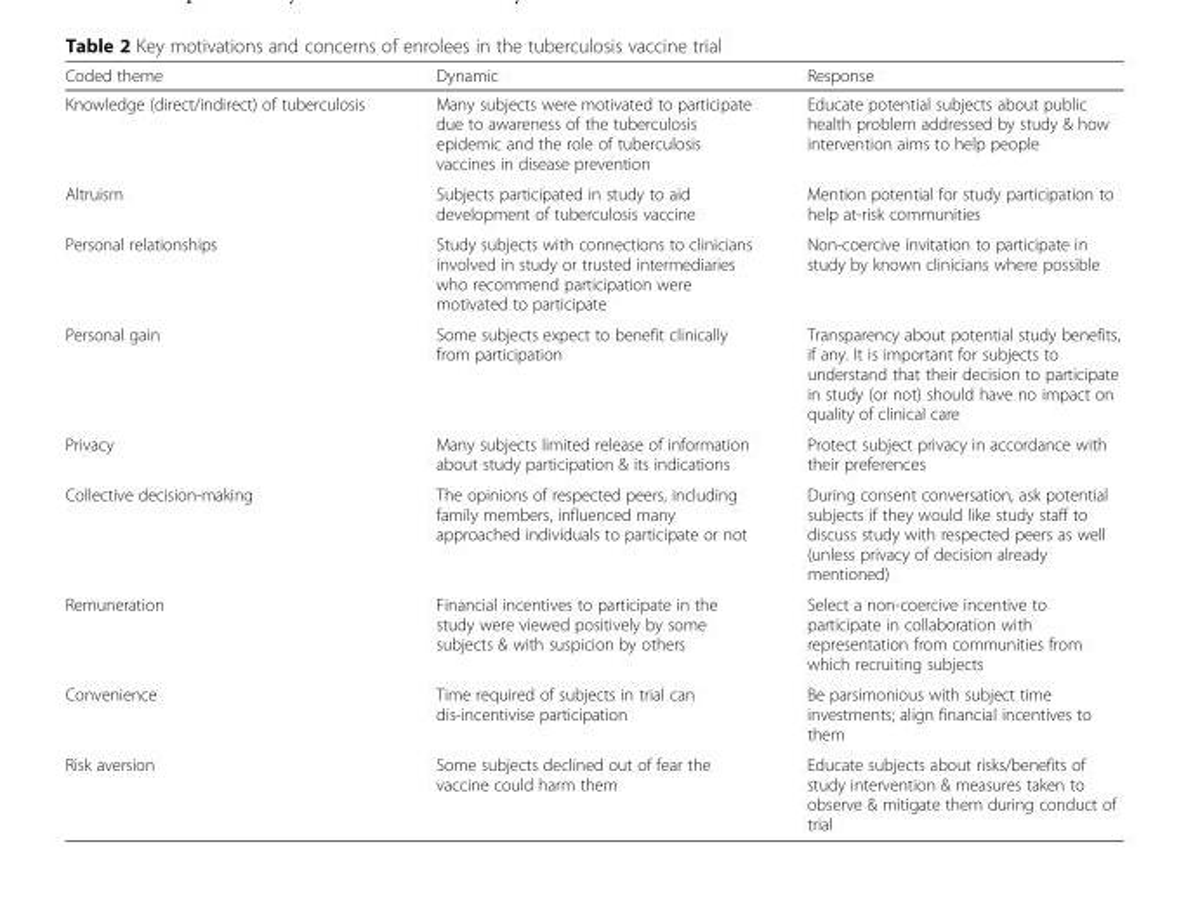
<table><thead><tr><td>Coded theme</td><td>Dynamic</td><td>Response</td></tr></thead><tbody><tr><td>Knowledge (direct/indirect) of tuberculosis</td><td>Many subjects were motivated to participate due to awareness of the tuberculosis epidemic and the role of tuberculosis vaccines in disease prevention</td><td>Educate potential subjects about public health problem addressed by study &amp; how intervention aims to help people</td></tr><tr><td>Altruism</td><td>Subjects participated in study to aid development of tuberculosis vaccine</td><td>Mention potential for study participation to help at-risk communities</td></tr><tr><td>Personal relationships</td><td>Study subjects with connections to clinicians involved in study or trusted intermediaries who recommend participation were motivated to participate</td><td>Non-coercive invitation to participate in study by known clinicians where possible</td></tr><tr><td>Personal gain</td><td>Some subjects expect to benefit clinically from participation</td><td>Transparency about potential study benefits, if any. It is important for subjects to understand that their decision to participate in study (or not) should have no impact on quality of clinical care</td></tr><tr><td>Privacy</td><td>Many subjects limited release of information about study participation &amp; its indications</td><td>Protect subject privacy in accordance with their preferences</td></tr><tr><td>Collective decision-making</td><td>The opinions of respected peers, including family members, influenced many approached individuals to participate or not</td><td>During consent conversation, ask potential subjects if they would like study staff to discuss study with respected peers as well (unless privacy of decision already mentioned)</td></tr><tr><td>Remuneration</td><td>Financial incentives to participate in the study were viewed positively by some subjects &amp; with suspicion by others</td><td>Select a non-coercive incentive to participate in collaboration with representation from communities from which recruiting subjects</td></tr><tr><td>Convenience</td><td>Time required of subjects in trial can dis-incentivise participation</td><td>Be parsimonious with subject time investments; align financial incentives to them</td></tr><tr><td>Risk aversion</td><td>Some subjects declined out of fear the vaccine could harm them</td><td>Educate subjects about risks/benefits of study intervention &amp; measures taken to observe &amp; mitigate them during conduct of trial</td></tr></tbody></table>